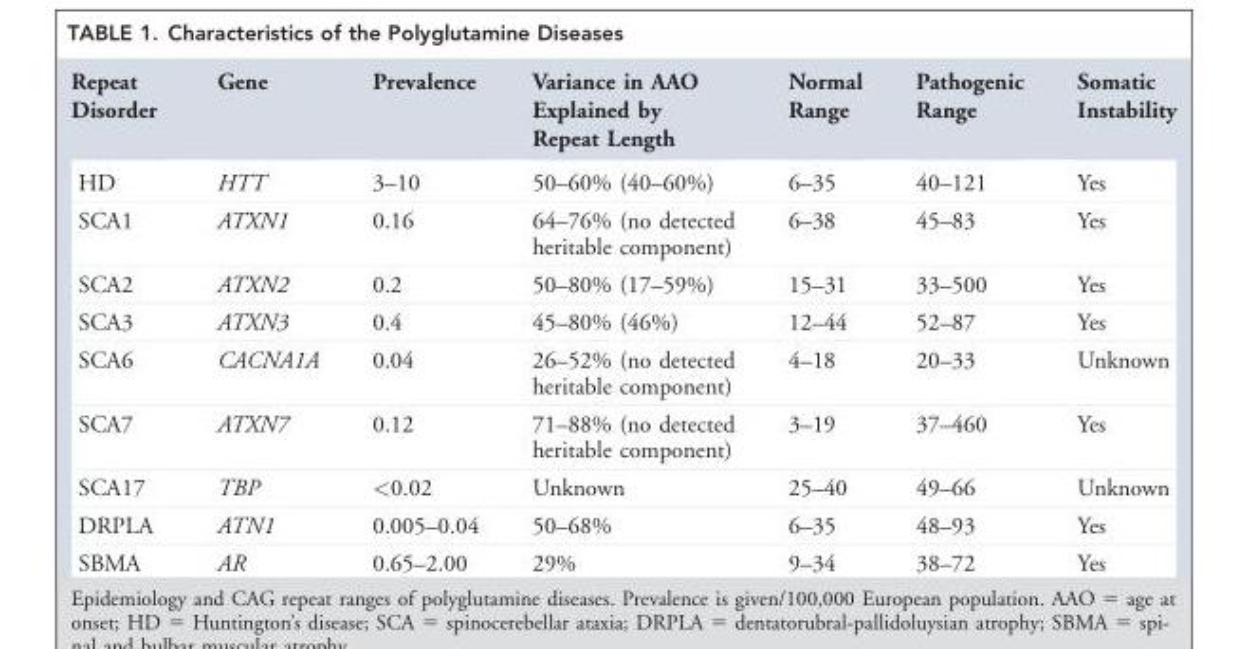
<table><thead><tr><td>Repeat Disorder</td><td>Gene</td><td>Prevalence</td><td>Variance in AAO Explained by Repeat Length</td><td>Normal Range</td><td>Pathogenic Range</td><td>Somatic Instability</td></tr></thead><tbody><tr><td>HD</td><td>HTT</td><td>3–10</td><td>50–60% (40–60%)</td><td>6–35</td><td>40–121</td><td>Yes</td></tr><tr><td>SCA1</td><td>ATXN1</td><td>0.16</td><td>64–76% (no detected heritable component)</td><td>6–38</td><td>45–83</td><td>Yes</td></tr><tr><td>SCA2</td><td>ATXN2</td><td>0.2</td><td>50–80% (17–59%)</td><td>15–31</td><td>33–500</td><td>Yes</td></tr><tr><td>SCA3</td><td>ATXN3</td><td>0.4</td><td>45–80% (46%)</td><td>12–44</td><td>52–87</td><td>Yes</td></tr><tr><td>SCA6</td><td>CACNA1A</td><td>0.04</td><td>26–52% (no detected heritable component)</td><td>4–18</td><td>20–33</td><td>Unknown</td></tr><tr><td>SCA7</td><td>ATXN7</td><td>0.12</td><td>71–88% (no detected heritable component)</td><td>3–19</td><td>37–460</td><td>Yes</td></tr><tr><td>SCA17</td><td>TBP</td><td>&lt;0.02</td><td>Unknown</td><td>25–40</td><td>49–66</td><td>Unknown</td></tr><tr><td>DRPLA</td><td>ATN1</td><td>0.005–0.04</td><td>50–68%</td><td>6–35</td><td>48–93</td><td>Yes</td></tr><tr><td>SBMA</td><td>AR</td><td>0.65–2.00</td><td>29%</td><td>9–34</td><td>38–72</td><td>Yes</td></tr></tbody></table>